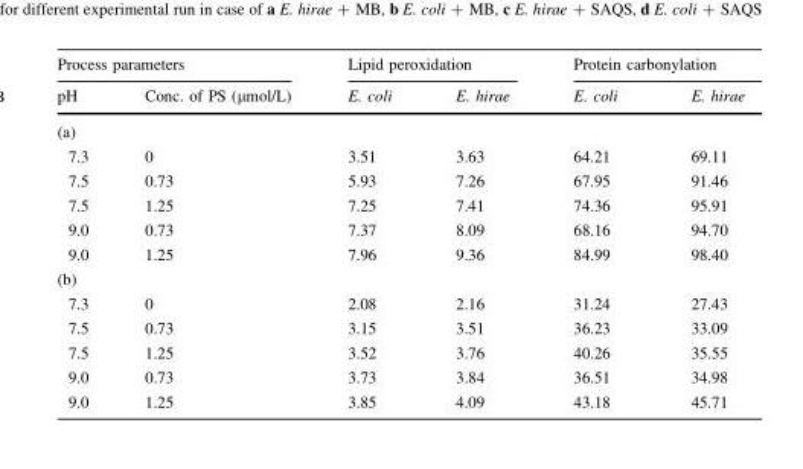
<table><thead><tr><td colspan="2">Process parameters</td><td colspan="2">Lipid peroxidation</td><td colspan="2">Protein carbonylation</td></tr><tr><td>pH</td><td>Conc. of PS (μmol/L)</td><td>E. coli</td><td>E. hirae</td><td>E. coli</td><td>E. hirae</td></tr></thead><tbody><tr><td colspan="6">(a)</td></tr><tr><td>7.3</td><td>0</td><td>3.51</td><td>3.63</td><td>64.21</td><td>69.11</td></tr><tr><td>7.5</td><td>0.73</td><td>5.93</td><td>7.26</td><td>67.95</td><td>91.46</td></tr><tr><td>7.5</td><td>1.25</td><td>7.25</td><td>7.41</td><td>74.36</td><td>95.91</td></tr><tr><td>9.0</td><td>0.73</td><td>7.37</td><td>8.09</td><td>68.16</td><td>94.70</td></tr><tr><td>9.0</td><td>1.25</td><td>7.96</td><td>9.36</td><td>84.99</td><td>98.40</td></tr><tr><td colspan="6">(b)</td></tr><tr><td>7.3</td><td>0</td><td>2.08</td><td>2.16</td><td>31.24</td><td>27.43</td></tr><tr><td>7.5</td><td>0.73</td><td>3.15</td><td>3.51</td><td>36.23</td><td>33.09</td></tr><tr><td>7.5</td><td>1.25</td><td>3.52</td><td>3.76</td><td>40.26</td><td>35.55</td></tr><tr><td>9.0</td><td>0.73</td><td>3.73</td><td>3.84</td><td>36.51</td><td>34.98</td></tr><tr><td>9.0</td><td>1.25</td><td>3.85</td><td>4.09</td><td>43.18</td><td>45.71</td></tr></tbody></table>